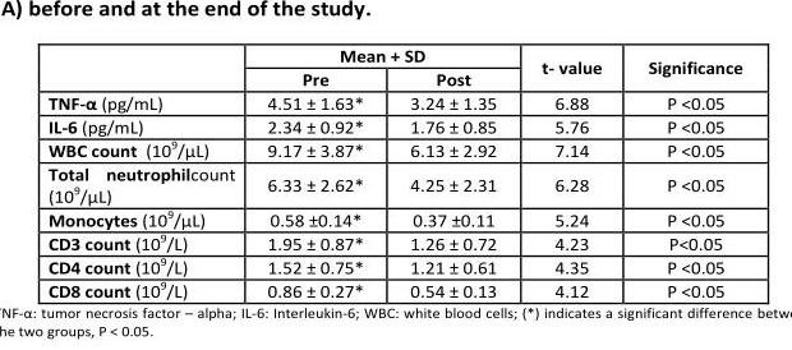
<table><thead><tr><td rowspan="2"></td><td colspan="2">Mean + SD</td><td rowspan="2">t- value</td><td rowspan="2">Significance</td></tr><tr><td>Pre</td><td>Post</td></tr></thead><tbody><tr><td>TNF-α (pg/mL)</td><td>4.51 ± 1.63*</td><td>3.24 ± 1.35</td><td>6.88</td><td>P &lt;0.05</td></tr><tr><td>IL-6 (pg/mL)</td><td>2.34 ± 0.92*</td><td>1.76 ± 0.85</td><td>5.76</td><td>P &lt;0.05</td></tr><tr><td>WBC count (10<sup>9</sup>/µL)</td><td>9.17 ± 3.87*</td><td>6.13 ± 2.92</td><td>7.14</td><td>P &lt;0.05</td></tr><tr><td>Total neutrophilcount (10<sup>9</sup>/µL)</td><td>6.33 ± 2.62*</td><td>4.25 ± 2.31</td><td>6.28</td><td>P &lt;0.05</td></tr><tr><td>Monocytes (10<sup>9</sup>/µL)</td><td>0.58 ±0.14*</td><td>0.37 ±0.11</td><td>5.24</td><td>P &lt;0.05</td></tr><tr><td>CD3 count (10<sup>9</sup>/L)</td><td>1.95 ± 0.87*</td><td>1.26 ± 0.72</td><td>4.23</td><td>P&lt;0.05</td></tr><tr><td>CD4 count (10<sup>9</sup>/L)</td><td>1.52 ± 0.75*</td><td>1.21 ± 0.61</td><td>4.35</td><td>P &lt;0.05</td></tr><tr><td>CD8 count (10<sup>9</sup>/L)</td><td>0.86 ± 0.27*</td><td>0.54 ± 0.13</td><td>4.12</td><td>P &lt;0.05</td></tr></tbody></table>